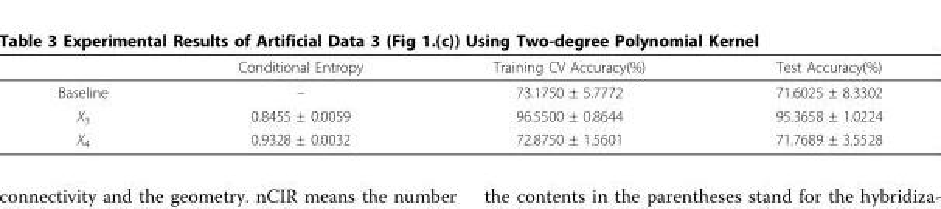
<table><thead><tr><td></td><td>Conditional Entropy</td><td>Training CV Accuracy(%)</td><td>Test Accuracy(%)</td></tr></thead><tbody><tr><td>Baseline</td><td>–</td><td>73.1750 ± 5.7772</td><td>71.6025 ± 8.3302</td></tr><tr><td>X<sub>3</sub></td><td>0.8455 ± 0.0059</td><td>96.5500 ± 0.8644</td><td>95.3658 ± 1.0224</td></tr><tr><td>X<sub>4</sub></td><td>0.9328 ± 0.0032</td><td>72.8750 ± 1.5601</td><td>71.7689 ± 3.5528</td></tr></tbody></table>